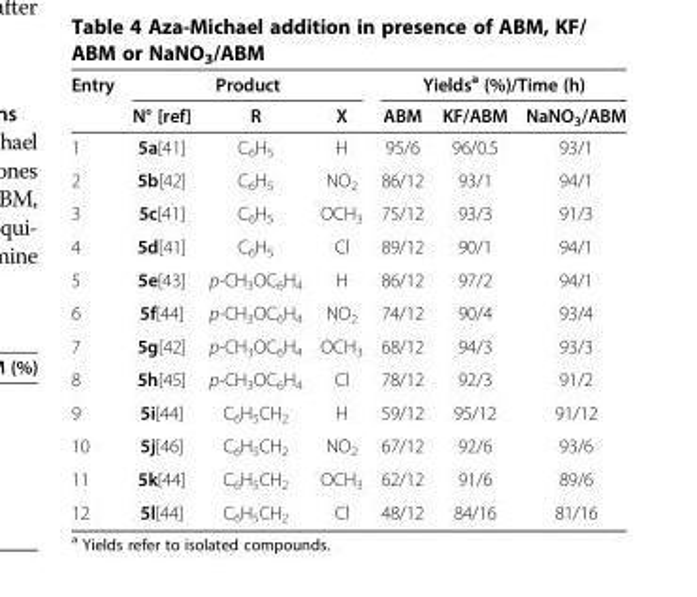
<table><thead><tr><td rowspan="2">Entry</td><td rowspan="2">N° [ref]</td><td rowspan="2">Product R</td><td rowspan="2">X</td><td colspan="3">Yields<sup>a</sup> (%)/Time (h)</td></tr><tr><td>ABM</td><td>KF/ABM</td><td>NaNO<sub>3</sub>/ABM</td></tr></thead><tbody><tr><td>1</td><td>5a[41]</td><td>C<sub>6</sub>H<sub>5</sub></td><td>H</td><td>95/6</td><td>96/0.5</td><td>93/1</td></tr><tr><td>2</td><td>5b[42]</td><td>C<sub>6</sub>H<sub>5</sub></td><td>NO<sub>2</sub></td><td>86/12</td><td>93/1</td><td>94/1</td></tr><tr><td>3</td><td>5c[41]</td><td>C<sub>6</sub>H<sub>5</sub></td><td>OCH<sub>3</sub></td><td>75/12</td><td>93/3</td><td>91/3</td></tr><tr><td>4</td><td>5d[41]</td><td>C<sub>6</sub>H<sub>5</sub></td><td>Cl</td><td>89/12</td><td>90/1</td><td>94/1</td></tr><tr><td>5</td><td>5e[43]</td><td>p-CH<sub>3</sub>OC<sub>6</sub>H<sub>4</sub></td><td>H</td><td>86/12</td><td>97/2</td><td>94/1</td></tr><tr><td>6</td><td>5f[44]</td><td>p-CH<sub>3</sub>OC<sub>6</sub>H<sub>4</sub></td><td>NO<sub>2</sub></td><td>74/12</td><td>90/4</td><td>93/4</td></tr><tr><td>7</td><td>5g[42]</td><td>p-CH<sub>3</sub>OC<sub>6</sub>H<sub>4</sub></td><td>OCH<sub>3</sub></td><td>68/12</td><td>94/3</td><td>93/3</td></tr><tr><td>8</td><td>5h[45]</td><td>p-CH<sub>3</sub>OC<sub>6</sub>H<sub>4</sub></td><td>Cl</td><td>78/12</td><td>92/3</td><td>91/2</td></tr><tr><td>9</td><td>5i[44]</td><td>C<sub>6</sub>H<sub>5</sub>CH<sub>2</sub></td><td>H</td><td>59/12</td><td>95/12</td><td>91/12</td></tr><tr><td>10</td><td>5j[46]</td><td>C<sub>6</sub>H<sub>5</sub>CH<sub>2</sub></td><td>NO<sub>2</sub></td><td>67/12</td><td>92/6</td><td>93/6</td></tr><tr><td>11</td><td>5k[44]</td><td>C<sub>6</sub>H<sub>5</sub>CH<sub>2</sub></td><td>OCH<sub>3</sub></td><td>62/12</td><td>91/6</td><td>89/6</td></tr><tr><td>12</td><td>5l[44]</td><td>C<sub>6</sub>H<sub>5</sub>CH<sub>2</sub></td><td>Cl</td><td>48/12</td><td>84/16</td><td>81/16</td></tr></tbody></table>